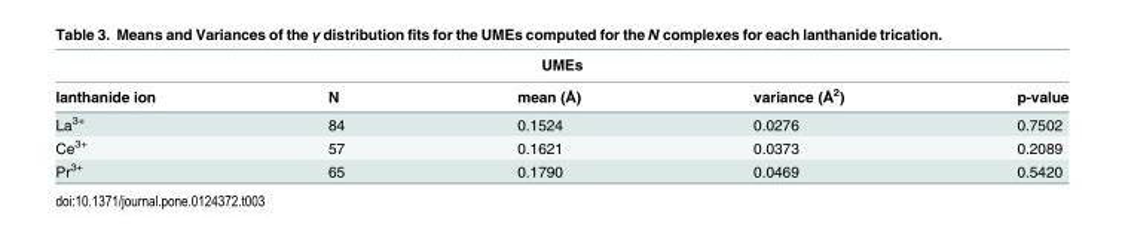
<table><thead><tr><td colspan="5">UMEs</td></tr><tr><td>lanthanide ion</td><td>N</td><td>mean (Å)</td><td>variance (Å<sup>2</sup>)</td><td>p-value</td></tr></thead><tbody><tr><td>La<sup>3+</sup></td><td>84</td><td>0.1524</td><td>0.0276</td><td>0.7502</td></tr><tr><td>Ce<sup>3+</sup></td><td>57</td><td>0.1621</td><td>0.0373</td><td>0.2089</td></tr><tr><td>Pr<sup>3+</sup></td><td>65</td><td>0.1790</td><td>0.0469</td><td>0.5420</td></tr></tbody></table>